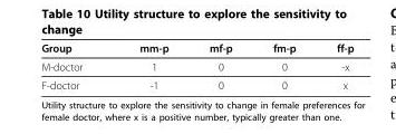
<table><thead><tr><td>Group</td><td>mm-p</td><td>mf-p</td><td>fm-p</td><td>ff-p</td></tr></thead><tbody><tr><td>M-doctor</td><td>1</td><td>0</td><td>0</td><td>-x</td></tr><tr><td>F-doctor</td><td>-1</td><td>0</td><td>0</td><td>x</td></tr></tbody></table>